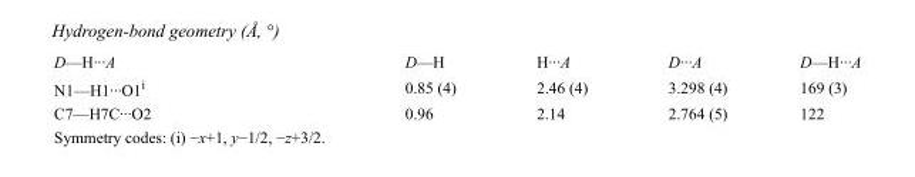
<table><tbody><tr><td>D—H···A</td><td>D—H</td><td>H···A</td><td>D···A</td><td>D—H···A</td></tr><tr><td>N1—H1···O1<sup>i</sup></td><td>0.85 (4)</td><td>2.46 (4)</td><td>3.298 (4)</td><td>169 (3)</td></tr><tr><td>C7—H7C···O2</td><td>0.96</td><td>2.14</td><td>2.764 (5)</td><td>122</td></tr></tbody></table>